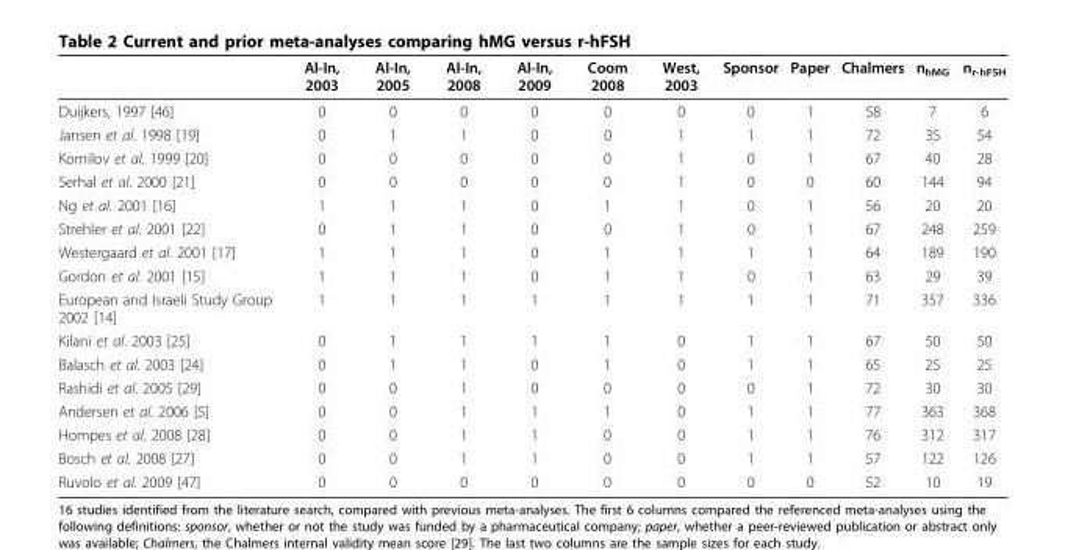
<table><thead><tr><td></td><td>Al-In, 2003</td><td>Al-In, 2005</td><td>Al-In, 2008</td><td>Al-In, 2009</td><td>Coom 2008</td><td>West, 2003</td><td>Sponsor</td><td>Paper</td><td>Chalmers</td><td>n<sub>hMG</sub></td><td>n<sub>r-hFSH</sub></td></tr></thead><tbody><tr><td>Duijkers, 1997 [46]</td><td>0</td><td>0</td><td>0</td><td>0</td><td>0</td><td>0</td><td>0</td><td>1</td><td>58</td><td>7</td><td>6</td></tr><tr><td>Jansen et al. 1998 [19]</td><td>0</td><td>1</td><td>1</td><td>0</td><td>0</td><td>1</td><td>1</td><td>1</td><td>72</td><td>35</td><td>54</td></tr><tr><td>Kornilov et al. 1999 [20]</td><td>0</td><td>0</td><td>0</td><td>0</td><td>0</td><td>1</td><td>0</td><td>1</td><td>67</td><td>40</td><td>28</td></tr><tr><td>Serhal et al. 2000 [21]</td><td>0</td><td>0</td><td>0</td><td>0</td><td>0</td><td>1</td><td>0</td><td>0</td><td>60</td><td>144</td><td>94</td></tr><tr><td>Ng et al. 2001 [16]</td><td>1</td><td>1</td><td>1</td><td>0</td><td>1</td><td>1</td><td>0</td><td>1</td><td>56</td><td>20</td><td>20</td></tr><tr><td>Strehler et al. 2001 [22]</td><td>0</td><td>1</td><td>1</td><td>0</td><td>0</td><td>1</td><td>0</td><td>1</td><td>67</td><td>248</td><td>259</td></tr><tr><td>Westergaard et al. 2001 [17]</td><td>1</td><td>1</td><td>1</td><td>0</td><td>1</td><td>1</td><td>1</td><td>1</td><td>64</td><td>189</td><td>190</td></tr><tr><td>Gordon et al. 2001 [15]</td><td>1</td><td>1</td><td>1</td><td>0</td><td>1</td><td>1</td><td>0</td><td>1</td><td>63</td><td>29</td><td>39</td></tr><tr><td>European and Israeli Study Group 2002 [14]</td><td>1</td><td>1</td><td>1</td><td>1</td><td>1</td><td>1</td><td>1</td><td>1</td><td>71</td><td>357</td><td>336</td></tr><tr><td>Kilani et al. 2003 [25]</td><td>0</td><td>1</td><td>1</td><td>1</td><td>1</td><td>0</td><td>1</td><td>1</td><td>67</td><td>50</td><td>50</td></tr><tr><td>Balasch et al. 2003 [24]</td><td>0</td><td>1</td><td>1</td><td>0</td><td>1</td><td>0</td><td>1</td><td>1</td><td>65</td><td>25</td><td>25</td></tr><tr><td>Rashidi et al. 2005 [29]</td><td>0</td><td>0</td><td>1</td><td>0</td><td>0</td><td>0</td><td>0</td><td>1</td><td>72</td><td>30</td><td>30</td></tr><tr><td>Andersen et al. 2006 [5]</td><td>0</td><td>0</td><td>1</td><td>1</td><td>1</td><td>0</td><td>1</td><td>1</td><td>77</td><td>363</td><td>368</td></tr><tr><td>Hompes et al. 2008 [28]</td><td>0</td><td>0</td><td>1</td><td>1</td><td>0</td><td>0</td><td>1</td><td>1</td><td>76</td><td>312</td><td>317</td></tr><tr><td>Bosch et al. 2008 [27]</td><td>0</td><td>0</td><td>1</td><td>1</td><td>0</td><td>0</td><td>1</td><td>1</td><td>57</td><td>122</td><td>126</td></tr><tr><td>Ruvolo et al. 2009 [47]</td><td>0</td><td>0</td><td>0</td><td>0</td><td>0</td><td>0</td><td>0</td><td>0</td><td>52</td><td>10</td><td>19</td></tr></tbody></table>